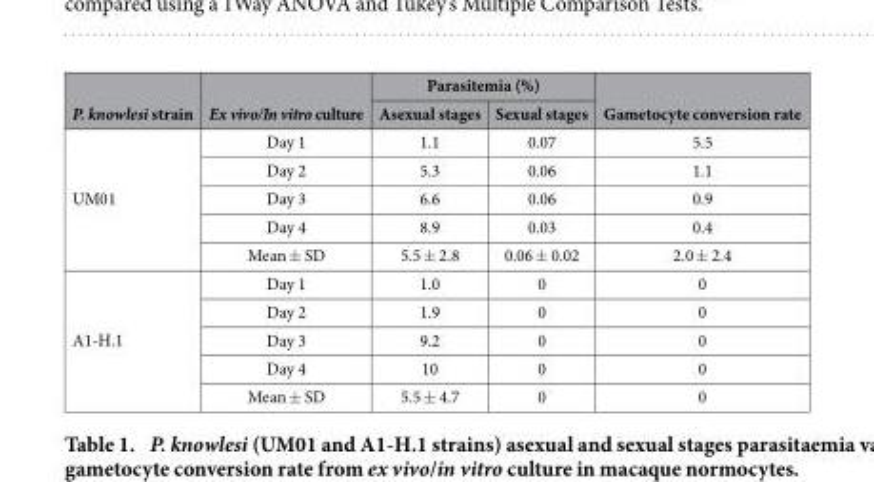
<table><thead><tr><td rowspan="2">P. knowlesi strain</td><td rowspan="2">Ex vivo/In vitro culture</td><td colspan="2">Parasitemia (%)</td><td rowspan="2">Gametocyte conversion rate</td></tr><tr><td>Asexual stages</td><td>Sexual stages</td></tr></thead><tbody><tr><td rowspan="5">UM01</td><td>Day 1</td><td>1.1</td><td>0.07</td><td>5.5</td></tr><tr><td>Day 2</td><td>5.3</td><td>0.06</td><td>1.1</td></tr><tr><td>Day 3</td><td>6.6</td><td>0.06</td><td>0.9</td></tr><tr><td>Day 4</td><td>8.9</td><td>0.03</td><td>0.4</td></tr><tr><td>Mean ± SD</td><td>5.5 ± 2.8</td><td>0.06 ± 0.02</td><td>2.0 ± 2.4</td></tr><tr><td rowspan="5">A1-H.1</td><td>Day 1</td><td>1.0</td><td>0</td><td>0</td></tr><tr><td>Day 2</td><td>1.9</td><td>0</td><td>0</td></tr><tr><td>Day 3</td><td>9.2</td><td>0</td><td>0</td></tr><tr><td>Day 4</td><td>10</td><td>0</td><td>0</td></tr><tr><td>Mean ± SD</td><td>5.5 ± 4.7</td><td>0</td><td>0</td></tr></tbody></table>